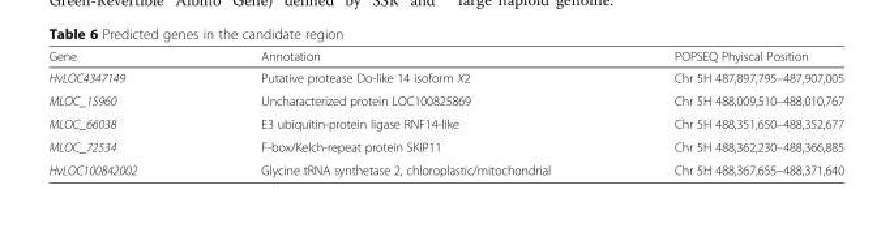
<table><thead><tr><td>Gene</td><td>Annotation</td><td>POPSEQ Phyiscal Position</td></tr></thead><tbody><tr><td>HvLOC4347149</td><td>Putative protease Do-like 14 isoform X2</td><td>Chr 5H 487,897,795–487,907,005</td></tr><tr><td>MLOC_15960</td><td>Uncharacterized protein LOC100825869</td><td>Chr 5H 488,009,510–488,010,767</td></tr><tr><td>MLOC_66038</td><td>E3 ubiquitin-protein ligase RNF14-like</td><td>Chr 5H 488,351,650–488,352,677</td></tr><tr><td>MLOC_72534</td><td>F-box/Kelch-repeat protein SKIP11</td><td>Chr 5H 488,362,230–488,366,885</td></tr><tr><td>HvLOC100842002</td><td>Glycine tRNA synthetase 2, chloroplastic/mitochondrial</td><td>Chr 5H 488,367,655–488,371,640</td></tr></tbody></table>